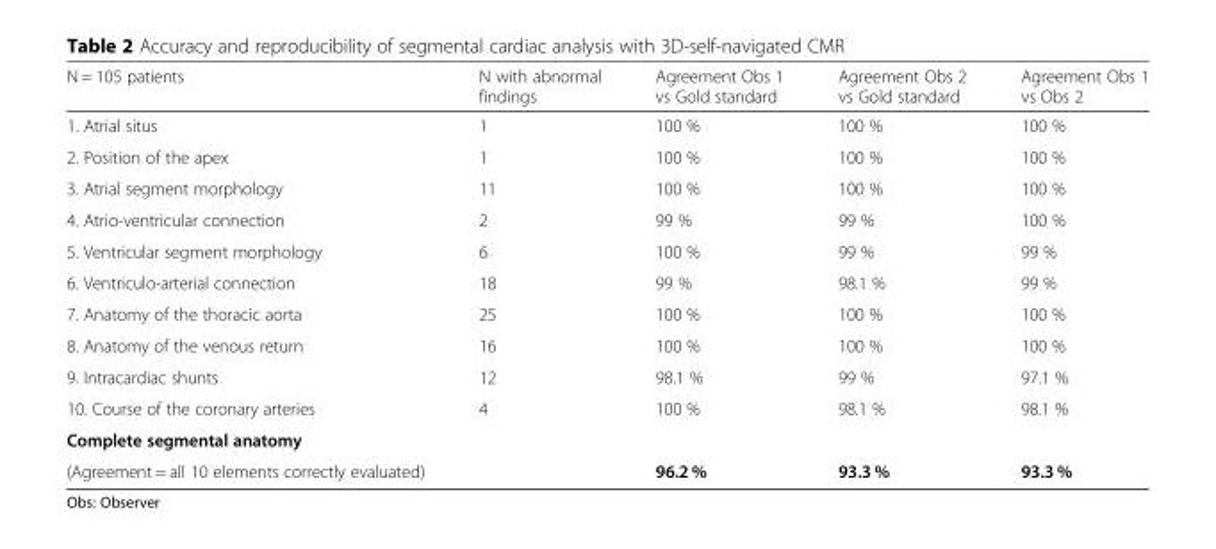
<table><thead><tr><td>N = 105 patients</td><td>N with abnormal findings</td><td>Agreement Obs 1 vs Gold standard</td><td>Agreement Obs 2 vs Gold standard</td><td>Agreement Obs 1 vs Obs 2</td></tr></thead><tbody><tr><td>1. Atrial situs</td><td>1</td><td>100 %</td><td>100 %</td><td>100 %</td></tr><tr><td>2. Position of the apex</td><td>1</td><td>100 %</td><td>100 %</td><td>100 %</td></tr><tr><td>3. Atrial segment morphology</td><td>11</td><td>100 %</td><td>100 %</td><td>100 %</td></tr><tr><td>4. Atrio-ventricular connection</td><td>2</td><td>99 %</td><td>99 %</td><td>100 %</td></tr><tr><td>5. Ventricular segment morphology</td><td>6</td><td>100 %</td><td>99 %</td><td>99 %</td></tr><tr><td>6. Ventriculo-arterial connection</td><td>18</td><td>99 %</td><td>98.1 %</td><td>99 %</td></tr><tr><td>7. Anatomy of the thoracic aorta</td><td>25</td><td>100 %</td><td>100 %</td><td>100 %</td></tr><tr><td>8. Anatomy of the venous return</td><td>16</td><td>100 %</td><td>100 %</td><td>100 %</td></tr><tr><td>9. Intracardiac shunts</td><td>12</td><td>98.1 %</td><td>99 %</td><td>97.1 %</td></tr><tr><td>10. Course of the coronary arteries</td><td>4</td><td>100 %</td><td>98.1 %</td><td>98.1 %</td></tr><tr><td colspan="5">Complete segmental anatomy</td></tr><tr><td>(Agreement = all 10 elements correctly evaluated)</td><td></td><td>96.2 %</td><td>93.3 %</td><td>93.3 %</td></tr></tbody></table>